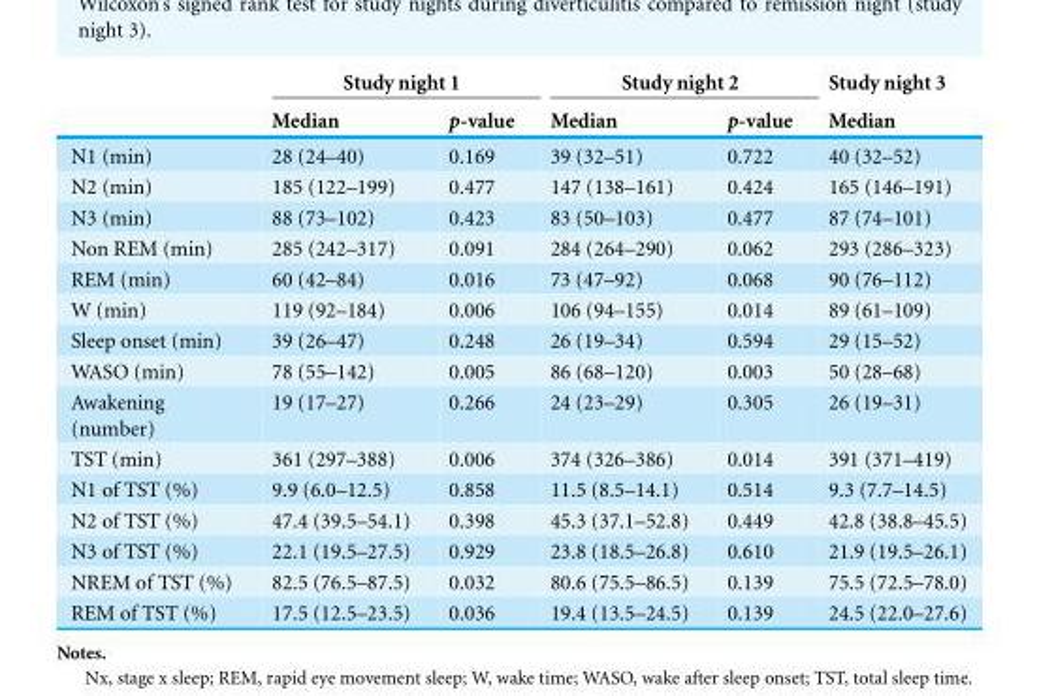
<table><thead><tr><td rowspan="2"></td><td colspan="2">Study night 1</td><td colspan="2">Study night 2</td><td rowspan="2">Study night 3 Median</td></tr><tr><td>Median</td><td>p-value</td><td>Median</td><td>p-value</td></tr></thead><tbody><tr><td>N1 (min)</td><td>28 (24–40)</td><td>0.169</td><td>39 (32–51)</td><td>0.722</td><td>40 (32–52)</td></tr><tr><td>N2 (min)</td><td>185 (122–199)</td><td>0.477</td><td>147 (138–161)</td><td>0.424</td><td>165 (146–191)</td></tr><tr><td>N3 (min)</td><td>88 (73–102)</td><td>0.423</td><td>83 (50–103)</td><td>0.477</td><td>87 (74–101)</td></tr><tr><td>Non REM (min)</td><td>285 (242–317)</td><td>0.091</td><td>284 (264–290)</td><td>0.062</td><td>293 (286–323)</td></tr><tr><td>REM (min)</td><td>60 (42–84)</td><td>0.016</td><td>73 (47–92)</td><td>0.068</td><td>90 (76–112)</td></tr><tr><td>W (min)</td><td>119 (92–184)</td><td>0.006</td><td>106 (94–155)</td><td>0.014</td><td>89 (61–109)</td></tr><tr><td>Sleep onset (min)</td><td>39 (26–47)</td><td>0.248</td><td>26 (19–34)</td><td>0.594</td><td>29 (15–52)</td></tr><tr><td>WASO (min)</td><td>78 (55–142)</td><td>0.005</td><td>86 (68–120)</td><td>0.003</td><td>50 (28–68)</td></tr><tr><td>Awakening (number)</td><td>19 (17–27)</td><td>0.266</td><td>24 (23–29)</td><td>0.305</td><td>26 (19–31)</td></tr><tr><td>TST (min)</td><td>361 (297–388)</td><td>0.006</td><td>374 (326–386)</td><td>0.014</td><td>391 (371–419)</td></tr><tr><td>N1 of TST (%)</td><td>9.9 (6.0–12.5)</td><td>0.858</td><td>11.5 (8.5–14.1)</td><td>0.514</td><td>9.3 (7.7–14.5)</td></tr><tr><td>N2 of TST (%)</td><td>47.4 (39.5–54.1)</td><td>0.398</td><td>45.3 (37.1–52.8)</td><td>0.449</td><td>42.8 (38.8–45.5)</td></tr><tr><td>N3 of TST (%)</td><td>22.1 (19.5–27.5)</td><td>0.929</td><td>23.8 (18.5–26.8)</td><td>0.610</td><td>21.9 (19.5–26.1)</td></tr><tr><td>NREM of TST (%)</td><td>82.5 (76.5–87.5)</td><td>0.032</td><td>80.6 (75.5–86.5)</td><td>0.139</td><td>75.5 (72.5–78.0)</td></tr><tr><td>REM of TST (%)</td><td>17.5 (12.5–23.5)</td><td>0.036</td><td>19.4 (13.5–24.5)</td><td>0.139</td><td>24.5 (22.0–27.6)</td></tr></tbody></table>